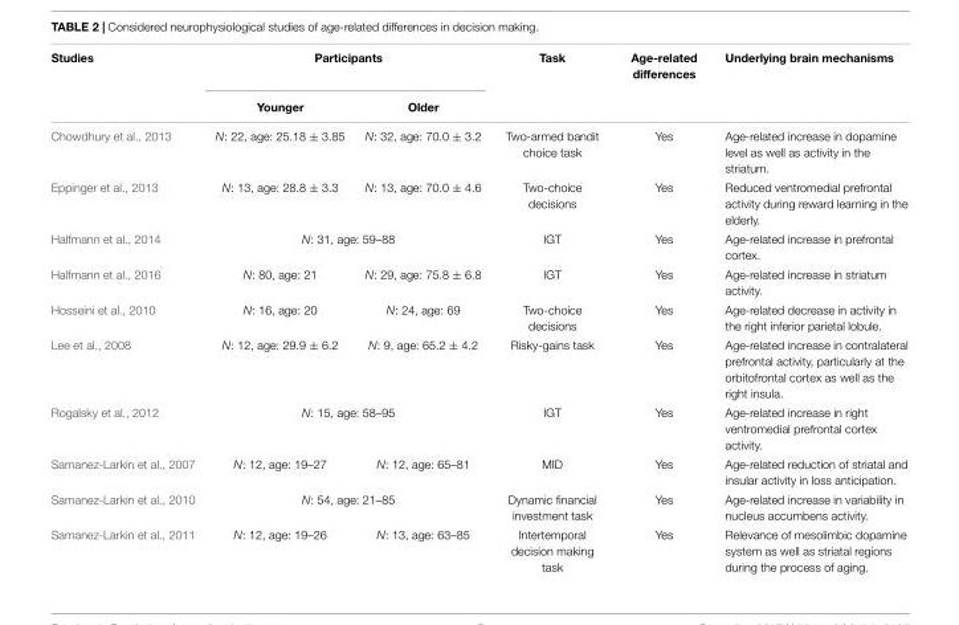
<table><thead><tr><td rowspan="2">Studies</td><td colspan="2">Participants</td><td rowspan="2">Task</td><td rowspan="2">Age-related differences</td><td rowspan="2">Underlying brain mechanisms</td></tr><tr><td>Younger</td><td>Older</td></tr></thead><tbody><tr><td>Chowdhury et al., 2013</td><td>N: 22, age: 25.18 ± 3.85</td><td>N: 32, age: 70.0 ± 3.2</td><td>Two-armed bandit choice task</td><td>Yes</td><td>Age-related increase in dopamine level as well as activity in the striatum.</td></tr><tr><td>Eppinger et al., 2013</td><td>N: 13, age: 28.8 ± 3.3</td><td>N: 13, age: 70.0 ± 4.6</td><td>Two-choice decisions</td><td>Yes</td><td>Reduced ventromedial prefrontal activity during reward learning in the elderly.</td></tr><tr><td>Halfmann et al., 2014</td><td colspan="2">N: 31, age: 59–88</td><td>IGT</td><td>Yes</td><td>Age-related increase in prefrontal cortex.</td></tr><tr><td>Halfmann et al., 2016</td><td>N: 80, age: 21</td><td>N: 29, age: 75.8 ± 6.8</td><td>IGT</td><td>Yes</td><td>Age-related increase in striatum activity.</td></tr><tr><td>Hosseini et al., 2010</td><td>N: 16, age: 20</td><td>N: 24, age: 69</td><td>Two-choice decisions</td><td>Yes</td><td>Age-related decrease in activity in the right inferior parietal lobule.</td></tr><tr><td>Lee et al., 2008</td><td>N: 12, age: 29.9 ± 6.2</td><td>N: 9, age: 65.2 ± 4.2</td><td>Risky-gains task</td><td>Yes</td><td>Age-related increase in contralateral prefrontal activity, particularly at the orbitofrontal cortex as well as the right insula.</td></tr><tr><td>Rogalsky et al., 2012</td><td colspan="2">N: 15, age: 58–95</td><td>IGT</td><td>Yes</td><td>Age-related increase in right ventromedial prefrontal cortex activity.</td></tr><tr><td>Samanez-Larkin et al., 2007</td><td>N: 12, age: 19–27</td><td>N: 12, age: 65–81</td><td>MID</td><td>Yes</td><td>Age-related reduction of striatal and insular activity in loss anticipation.</td></tr><tr><td>Samanez-Larkin et al., 2010</td><td colspan="2">N: 54, age: 21–85</td><td>Dynamic financial investment task</td><td>Yes</td><td>Age-related increase in variability in nucleus accumbens activity.</td></tr><tr><td>Samanez-Larkin et al., 2011</td><td>N: 12, age: 19–26</td><td>N: 13, age: 63–85</td><td>Intertemporal decision making task</td><td>Yes</td><td>Relevance of mesolimbic dopamine system as well as striatal regions during the process of aging.</td></tr></tbody></table>